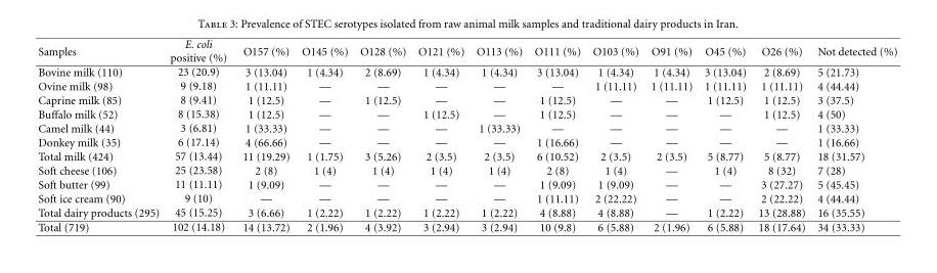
<table><thead><tr><td>Samples</td><td>E. coli positive (%)</td><td>O157 (%)</td><td>O145 (%)</td><td>O128 (%)</td><td>O121 (%)</td><td>O113 (%)</td><td>O111 (%)</td><td>O103 (%)</td><td>O91 (%)</td><td>O45 (%)</td><td>O26 (%)</td><td>Not detected (%)</td></tr></thead><tbody><tr><td>Bovine milk (110)</td><td>23 (20.9)</td><td>3 (13.04)</td><td>1 (4.34)</td><td>2 (8.69)</td><td>1 (4.34)</td><td>1 (4.34)</td><td>3 (13.04)</td><td>1 (4.34)</td><td>1 (4.34)</td><td>3 (13.04)</td><td>2 (8.69)</td><td>5 (21.73)</td></tr><tr><td>Ovine milk (98)</td><td>9 (9.18)</td><td>1 (11.11)</td><td>—</td><td>—</td><td>—</td><td>—</td><td>—</td><td>1 (11.11)</td><td>1 (11.11)</td><td>1 (11.11)</td><td>1 (11.11)</td><td>4 (44.44)</td></tr><tr><td>Caprine milk (85)</td><td>8 (9.41)</td><td>1 (12.5)</td><td>—</td><td>1 (12.5)</td><td>—</td><td>—</td><td>1 (12.5)</td><td>—</td><td>—</td><td>1 (12.5)</td><td>1 (12.5)</td><td>3 (37.5)</td></tr><tr><td>Buffalo milk (52)</td><td>8 (15.38)</td><td>1 (12.5)</td><td>—</td><td>—</td><td>1 (12.5)</td><td>—</td><td>1 (12.5)</td><td>—</td><td>—</td><td>—</td><td>1 (12.5)</td><td>4 (50)</td></tr><tr><td>Camel milk (44)</td><td>3 (6.81)</td><td>1 (33.33)</td><td>—</td><td>—</td><td>—</td><td>1 (33.33)</td><td>—</td><td>—</td><td>—</td><td>—</td><td>—</td><td>1 (33.33)</td></tr><tr><td>Donkey milk (35)</td><td>6 (17.14)</td><td>4 (66.66)</td><td>—</td><td>—</td><td>—</td><td>—</td><td>1 (16.66)</td><td>—</td><td>—</td><td>—</td><td>—</td><td>1 (16.66)</td></tr><tr><td>Total milk (424)</td><td>57 (13.44)</td><td>11 (19.29)</td><td>1 (1.75)</td><td>3 (5.26)</td><td>2 (3.5)</td><td>2 (3.5)</td><td>6 (10.52)</td><td>2 (3.5)</td><td>2 (3.5)</td><td>5 (8.77)</td><td>5 (8.77)</td><td>18 (31.57)</td></tr><tr><td>Soft cheese (106)</td><td>25 (23.58)</td><td>2 (8)</td><td>1 (4)</td><td>1 (4)</td><td>1 (4)</td><td>1 (4)</td><td>2 (8)</td><td>1 (4)</td><td>—</td><td>1 (4)</td><td>8 (32)</td><td>7 (28)</td></tr><tr><td>Soft butter (99)</td><td>11 (11.11)</td><td>1 (9.09)</td><td>—</td><td>—</td><td>—</td><td>—</td><td>1 (9.09)</td><td>1 (9.09)</td><td>—</td><td>—</td><td>3 (27.27)</td><td>5 (45.45)</td></tr><tr><td>Soft ice cream (90)</td><td>9 (10)</td><td>—</td><td>—</td><td>—</td><td>—</td><td>—</td><td>1 (11.11)</td><td>2 (22.22)</td><td>—</td><td>—</td><td>2 (22.22)</td><td>4 (44.44)</td></tr><tr><td>Total dairy products (295)</td><td>45 (15.25)</td><td>3 (6.66)</td><td>1 (2.22)</td><td>1 (2.22)</td><td>1 (2.22)</td><td>1 (2.22)</td><td>4 (8.88)</td><td>4 (8.88)</td><td>—</td><td>1 (2.22)</td><td>13 (28.88)</td><td>16 (35.55)</td></tr><tr><td>Total (719)</td><td>102 (14.18)</td><td>14 (13.72)</td><td>2 (1.96)</td><td>4 (3.92)</td><td>3 (2.94)</td><td>3 (2.94)</td><td>10 (9.8)</td><td>6 (5.88)</td><td>2 (1.96)</td><td>6 (5.88)</td><td>18 (17.64)</td><td>34 (33.33)</td></tr></tbody></table>